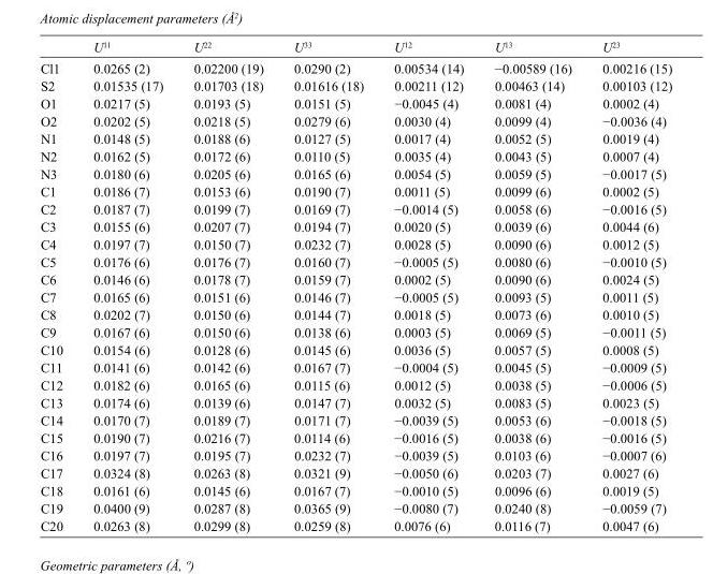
<table><thead><tr><td></td><td>U<sup>11</sup></td><td>U<sup>22</sup></td><td>U<sup>33</sup></td><td>U<sup>12</sup></td><td>U<sup>13</sup></td><td>U<sup>23</sup></td></tr></thead><tbody><tr><td>Cl1</td><td>0.0265 (2)</td><td>0.02200 (19)</td><td>0.0290 (2)</td><td>0.00534 (14)</td><td>−0.00589 (16)</td><td>0.00216 (15)</td></tr><tr><td>S2</td><td>0.01535 (17)</td><td>0.01703 (18)</td><td>0.01616 (18)</td><td>0.00211 (12)</td><td>0.00463 (14)</td><td>0.00103 (12)</td></tr><tr><td>O1</td><td>0.0217 (5)</td><td>0.0193 (5)</td><td>0.0151 (5)</td><td>−0.0045 (4)</td><td>0.0081 (4)</td><td>0.0002 (4)</td></tr><tr><td>O2</td><td>0.0202 (5)</td><td>0.0218 (5)</td><td>0.0279 (6)</td><td>0.0030 (4)</td><td>0.0099 (4)</td><td>−0.0036 (4)</td></tr><tr><td>N1</td><td>0.0148 (5)</td><td>0.0188 (6)</td><td>0.0127 (5)</td><td>0.0017 (4)</td><td>0.0052 (5)</td><td>0.0019 (4)</td></tr><tr><td>N2</td><td>0.0162 (5)</td><td>0.0172 (6)</td><td>0.0110 (5)</td><td>0.0035 (4)</td><td>0.0043 (5)</td><td>0.0007 (4)</td></tr><tr><td>N3</td><td>0.0180 (6)</td><td>0.0205 (6)</td><td>0.0165 (6)</td><td>0.0054 (5)</td><td>0.0059 (5)</td><td>−0.0017 (5)</td></tr><tr><td>C1</td><td>0.0186 (7)</td><td>0.0153 (6)</td><td>0.0190 (7)</td><td>0.0011 (5)</td><td>0.0099 (6)</td><td>0.0002 (5)</td></tr><tr><td>C2</td><td>0.0187 (7)</td><td>0.0199 (7)</td><td>0.0169 (7)</td><td>−0.0014 (5)</td><td>0.0058 (6)</td><td>−0.0016 (5)</td></tr><tr><td>C3</td><td>0.0155 (6)</td><td>0.0207 (7)</td><td>0.0194 (7)</td><td>0.0020 (5)</td><td>0.0039 (6)</td><td>0.0044 (6)</td></tr><tr><td>C4</td><td>0.0197 (7)</td><td>0.0150 (7)</td><td>0.0232 (7)</td><td>0.0028 (5)</td><td>0.0090 (6)</td><td>0.0012 (5)</td></tr><tr><td>C5</td><td>0.0176 (6)</td><td>0.0176 (7)</td><td>0.0160 (7)</td><td>−0.0005 (5)</td><td>0.0080 (6)</td><td>−0.0010 (5)</td></tr><tr><td>C6</td><td>0.0146 (6)</td><td>0.0178 (7)</td><td>0.0159 (7)</td><td>0.0002 (5)</td><td>0.0090 (6)</td><td>0.0024 (5)</td></tr><tr><td>C7</td><td>0.0165 (6)</td><td>0.0151 (6)</td><td>0.0146 (7)</td><td>−0.0005 (5)</td><td>0.0093 (5)</td><td>0.0011 (5)</td></tr><tr><td>C8</td><td>0.0202 (7)</td><td>0.0150 (6)</td><td>0.0144 (7)</td><td>0.0018 (5)</td><td>0.0073 (6)</td><td>0.0010 (5)</td></tr><tr><td>C9</td><td>0.0167 (6)</td><td>0.0150 (6)</td><td>0.0138 (6)</td><td>0.0003 (5)</td><td>0.0069 (5)</td><td>−0.0011 (5)</td></tr><tr><td>C10</td><td>0.0154 (6)</td><td>0.0128 (6)</td><td>0.0145 (6)</td><td>0.0036 (5)</td><td>0.0057 (5)</td><td>0.0008 (5)</td></tr><tr><td>C11</td><td>0.0141 (6)</td><td>0.0142 (6)</td><td>0.0167 (7)</td><td>−0.0004 (5)</td><td>0.0045 (5)</td><td>−0.0009 (5)</td></tr><tr><td>C12</td><td>0.0182 (6)</td><td>0.0165 (6)</td><td>0.0115 (6)</td><td>0.0012 (5)</td><td>0.0038 (5)</td><td>−0.0006 (5)</td></tr><tr><td>C13</td><td>0.0174 (6)</td><td>0.0139 (6)</td><td>0.0147 (7)</td><td>0.0032 (5)</td><td>0.0083 (5)</td><td>0.0023 (5)</td></tr><tr><td>C14</td><td>0.0170 (7)</td><td>0.0189 (7)</td><td>0.0171 (7)</td><td>−0.0039 (5)</td><td>0.0053 (6)</td><td>−0.0018 (5)</td></tr><tr><td>C15</td><td>0.0190 (7)</td><td>0.0216 (7)</td><td>0.0114 (6)</td><td>−0.0016 (5)</td><td>0.0038 (6)</td><td>−0.0016 (5)</td></tr><tr><td>C16</td><td>0.0197 (7)</td><td>0.0195 (7)</td><td>0.0232 (7)</td><td>−0.0039 (5)</td><td>0.0103 (6)</td><td>−0.0007 (6)</td></tr><tr><td>C17</td><td>0.0324 (8)</td><td>0.0263 (8)</td><td>0.0321 (9)</td><td>−0.0050 (6)</td><td>0.0203 (7)</td><td>0.0027 (6)</td></tr><tr><td>C18</td><td>0.0161 (6)</td><td>0.0145 (6)</td><td>0.0167 (7)</td><td>−0.0010 (5)</td><td>0.0096 (6)</td><td>0.0019 (5)</td></tr><tr><td>C19</td><td>0.0400 (9)</td><td>0.0287 (8)</td><td>0.0365 (9)</td><td>−0.0080 (7)</td><td>0.0240 (8)</td><td>−0.0059 (7)</td></tr><tr><td>C20</td><td>0.0263 (8)</td><td>0.0299 (8)</td><td>0.0259 (8)</td><td>0.0076 (6)</td><td>0.0116 (7)</td><td>0.0047 (6)</td></tr></tbody></table>